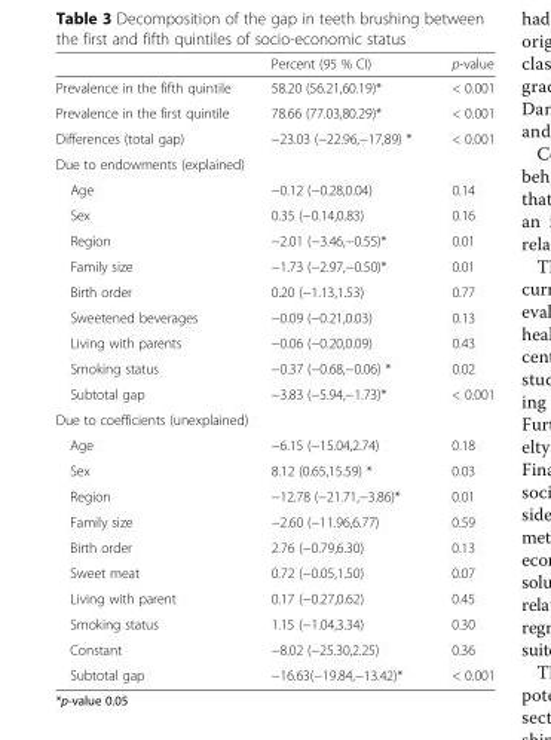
<table><thead><tr><td></td><td>Percent (95 % CI)</td><td>p-value</td></tr></thead><tbody><tr><td>Prevalence in the fifth quintile</td><td>58.20 (56.21,60.19)*</td><td>&lt; 0.001</td></tr><tr><td>Prevalence in the first quintile</td><td>78.66 (77.03,80.29)*</td><td>&lt; 0.001</td></tr><tr><td>Differences (total gap)</td><td>−23.03 (−22.96,−17,89) *</td><td>&lt; 0.001</td></tr><tr><td colspan="3">Due to endowments (explained)</td></tr><tr><td>Age</td><td>−0.12 (−0.28,0.04)</td><td>0.14</td></tr><tr><td>Sex</td><td>0.35 (−0.14,0.83)</td><td>0.16</td></tr><tr><td>Region</td><td>−2.01 (−3.46,−0.55)*</td><td>0.01</td></tr><tr><td>Family size</td><td>−1.73 (−2.97,−0.50)*</td><td>0.01</td></tr><tr><td>Birth order</td><td>0.20 (−1.13,1.53)</td><td>0.77</td></tr><tr><td>Sweetened beverages</td><td>−0.09 (−0.21,0.03)</td><td>0.13</td></tr><tr><td>Living with parents</td><td>−0.06 (−0.20,0.09)</td><td>0.43</td></tr><tr><td>Smoking status</td><td>−0.37 (−0.68,−0.06) *</td><td>0.02</td></tr><tr><td>Subtotal gap</td><td>−3.83 (−5.94,−1.73)*</td><td>&lt; 0.001</td></tr><tr><td colspan="3">Due to coefficients (unexplained)</td></tr><tr><td>Age</td><td>−6.15 (−15.04,2.74)</td><td>0.18</td></tr><tr><td>Sex</td><td>8.12 (0.65,15.59) *</td><td>0.03</td></tr><tr><td>Region</td><td>−12.78 (−21.71,−3.86)*</td><td>0.01</td></tr><tr><td>Family size</td><td>−2.60 (−11.96,6.77)</td><td>0.59</td></tr><tr><td>Birth order</td><td>2.76 (−0.79,6.30)</td><td>0.13</td></tr><tr><td>Sweet meat</td><td>0.72 (−0.05,1.50)</td><td>0.07</td></tr><tr><td>Living with parent</td><td>0.17 (−0.27,0.62)</td><td>0.45</td></tr><tr><td>Smoking status</td><td>1.15 (−1.04,3.34)</td><td>0.30</td></tr><tr><td>Constant</td><td>−8.02 (−25.30,2.25)</td><td>0.36</td></tr><tr><td>Subtotal gap</td><td>−16.63(−19.84,−13.42)*</td><td>&lt; 0.001</td></tr></tbody></table>